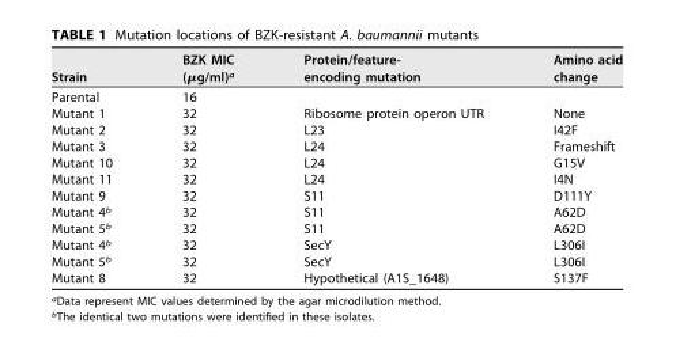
<table><thead><tr><td>Strain</td><td>BZK MIC (µg/ml)<sup>a</sup></td><td>Protein/feature- encoding mutation</td><td>Amino acid change</td></tr></thead><tbody><tr><td>Parental</td><td>16</td><td></td><td></td></tr><tr><td>Mutant 1</td><td>32</td><td>Ribosome protein operon UTR</td><td>None</td></tr><tr><td>Mutant 2</td><td>32</td><td>L23</td><td>I42F</td></tr><tr><td>Mutant 3</td><td>32</td><td>L24</td><td>Frameshift</td></tr><tr><td>Mutant 10</td><td>32</td><td>L24</td><td>G15V</td></tr><tr><td>Mutant 11</td><td>32</td><td>L24</td><td>I4N</td></tr><tr><td>Mutant 9</td><td>32</td><td>S11</td><td>D111Y</td></tr><tr><td>Mutant 4<sup>b</sup></td><td>32</td><td>S11</td><td>A62D</td></tr><tr><td>Mutant 5<sup>b</sup></td><td>32</td><td>S11</td><td>A62D</td></tr><tr><td>Mutant 4<sup>b</sup></td><td>32</td><td>SecY</td><td>L306I</td></tr><tr><td>Mutant 5<sup>b</sup></td><td>32</td><td>SecY</td><td>L306I</td></tr><tr><td>Mutant 8</td><td>32</td><td>Hypothetical (A1S_1648)</td><td>S137F</td></tr></tbody></table>